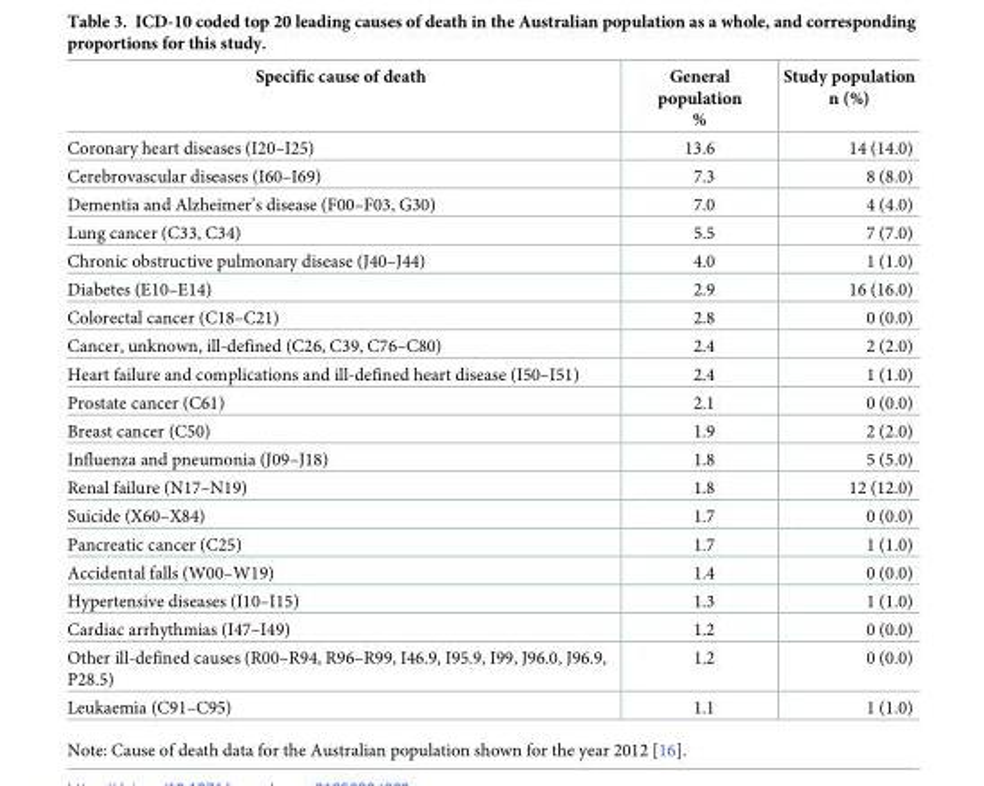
<table><thead><tr><td>Specific cause of death</td><td>General population %</td><td>Study population n (%)</td></tr></thead><tbody><tr><td>Coronary heart diseases (I20–I25)</td><td>13.6</td><td>14 (14.0)</td></tr><tr><td>Cerebrovascular diseases (I60–I69)</td><td>7.3</td><td>8 (8.0)</td></tr><tr><td>Dementia and Alzheimer’s disease (F00–F03, G30)</td><td>7.0</td><td>4 (4.0)</td></tr><tr><td>Lung cancer (C33, C34)</td><td>5.5</td><td>7 (7.0)</td></tr><tr><td>Chronic obstructive pulmonary disease (J40–J44)</td><td>4.0</td><td>1 (1.0)</td></tr><tr><td>Diabetes (E10–E14)</td><td>2.9</td><td>16 (16.0)</td></tr><tr><td>Colorectal cancer (C18–C21)</td><td>2.8</td><td>0 (0.0)</td></tr><tr><td>Cancer, unknown, ill-defined (C26, C39, C76–C80)</td><td>2.4</td><td>2 (2.0)</td></tr><tr><td>Heart failure and complications and ill-defined heart disease (I50–I51)</td><td>2.4</td><td>1 (1.0)</td></tr><tr><td>Prostate cancer (C61)</td><td>2.1</td><td>0 (0.0)</td></tr><tr><td>Breast cancer (C50)</td><td>1.9</td><td>2 (2.0)</td></tr><tr><td>Influenza and pneumonia (J09–J18)</td><td>1.8</td><td>5 (5.0)</td></tr><tr><td>Renal failure (N17–N19)</td><td>1.8</td><td>12 (12.0)</td></tr><tr><td>Suicide (X60–X84)</td><td>1.7</td><td>0 (0.0)</td></tr><tr><td>Pancreatic cancer (C25)</td><td>1.7</td><td>1 (1.0)</td></tr><tr><td>Accidental falls (W00–W19)</td><td>1.4</td><td>0 (0.0)</td></tr><tr><td>Hypertensive diseases (I10–I15)</td><td>1.3</td><td>1 (1.0)</td></tr><tr><td>Cardiac arrhythmias (I47–I49)</td><td>1.2</td><td>0 (0.0)</td></tr><tr><td>Other ill-defined causes (R00–R94, R96–R99, I46.9, I95.9, I99, J96.0, J96.9, P28.5)</td><td>1.2</td><td>0 (0.0)</td></tr><tr><td>Leukaemia (C91–C95)</td><td>1.1</td><td>1 (1.0)</td></tr></tbody></table>